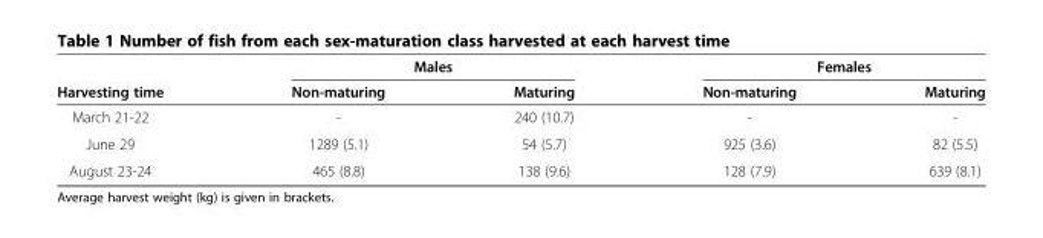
<table><thead><tr><td rowspan="2">Harvesting time</td><td colspan="2">Males</td><td colspan="2">Females</td></tr><tr><td>Non-maturing</td><td>Maturing</td><td>Non-maturing</td><td>Maturing</td></tr></thead><tbody><tr><td>March 21-22</td><td>-</td><td>240 (10.7)</td><td>-</td><td>-</td></tr><tr><td>June 29</td><td>1289 (5.1)</td><td>54 (5.7)</td><td>925 (3.6)</td><td>82 (5.5)</td></tr><tr><td>August 23-24</td><td>465 (8.8)</td><td>138 (9.6)</td><td>128 (7.9)</td><td>639 (8.1)</td></tr></tbody></table>